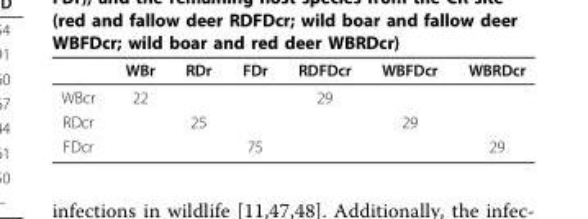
<table><thead><tr><td></td><td>WBr</td><td>RDr</td><td>FDr</td><td>RDFDcr</td><td>WBFDcr</td><td>WBRDcr</td></tr></thead><tbody><tr><td>WBcr</td><td>22</td><td></td><td></td><td>29</td><td></td><td></td></tr><tr><td>RDcr</td><td></td><td>25</td><td></td><td></td><td>29</td><td></td></tr><tr><td>FDcr</td><td></td><td></td><td>75</td><td></td><td></td><td>29</td></tr></tbody></table>